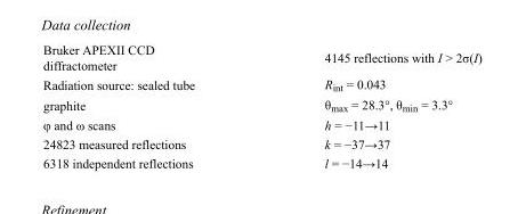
<table><tbody><tr><td>Bruker APEXII CCD diffractometer</td><td>4145 reflections with I &gt; 2σ(I)</td></tr><tr><td>Radiation source: sealed tube</td><td>R<sub>int</sub> = 0.043</td></tr><tr><td>graphite</td><td>θ<sub>max</sub> = 28.3°, θ<sub>min</sub> = 3.3°</td></tr><tr><td>φ and ω scans</td><td>h = −11→11</td></tr><tr><td>24823 measured reflections</td><td>k = −37→37</td></tr><tr><td>6318 independent reflections</td><td>l = −14→14</td></tr></tbody></table>